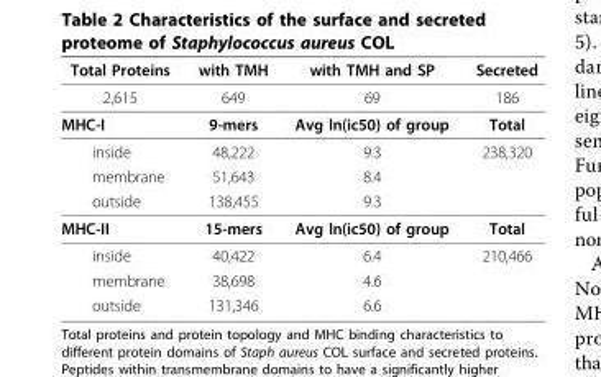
<table><thead><tr><td>Total Proteins</td><td>with TMH</td><td>with TMH and SP</td><td>Secreted</td></tr></thead><tbody><tr><td>2,615</td><td>649</td><td>69</td><td>186</td></tr><tr><td>MHC-I</td><td>9-mers</td><td>Avg ln(ic50) of group</td><td>Total</td></tr><tr><td>inside</td><td>48,222</td><td>9.3</td><td>238,320</td></tr><tr><td>membrane</td><td>51,643</td><td>8.4</td><td></td></tr><tr><td>outside</td><td>138,455</td><td>9.3</td><td></td></tr><tr><td>MHC-II</td><td>15-mers</td><td>Avg ln(ic50) of group</td><td>Total</td></tr><tr><td>inside</td><td>40,422</td><td>6.4</td><td>210,466</td></tr><tr><td>membrane</td><td>38,698</td><td>4.6</td><td></td></tr><tr><td>outside</td><td>131,346</td><td>6.6</td><td></td></tr></tbody></table>